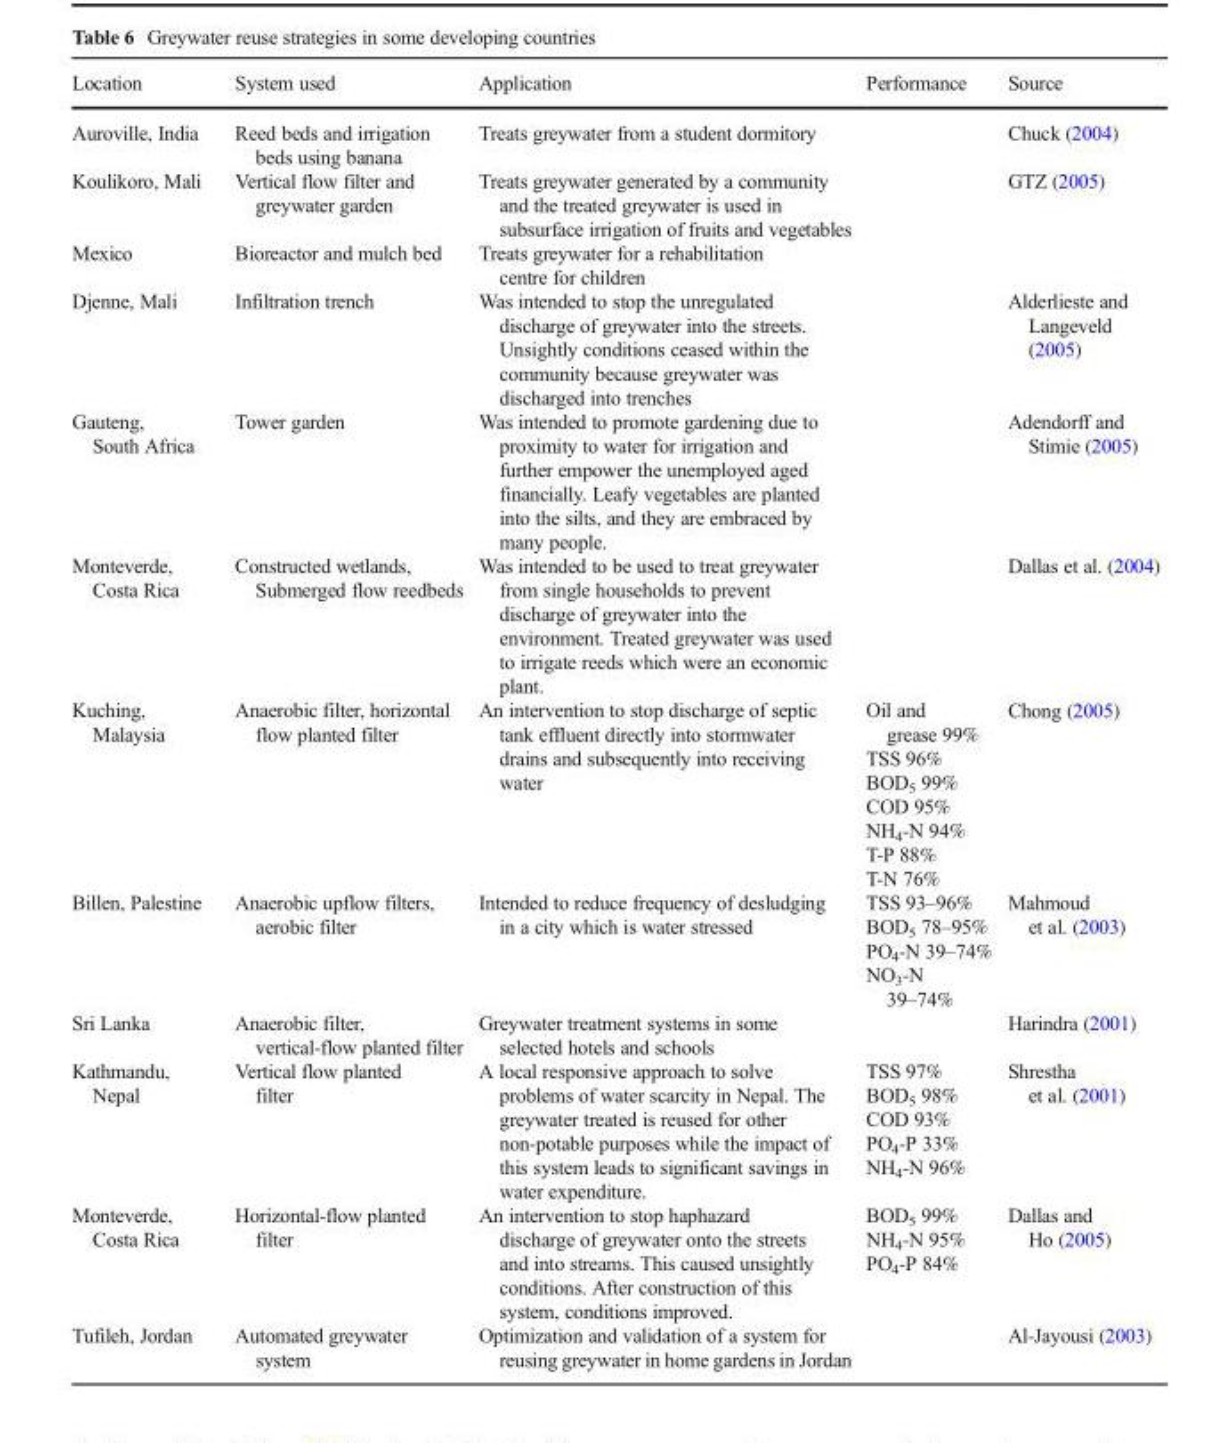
<table><thead><tr><td>Location</td><td>System used</td><td>Application</td><td>Performance</td><td>Source</td></tr></thead><tbody><tr><td>Auroville, India</td><td>Reed beds and irrigation beds using banana</td><td>Treats greywater from a student dormitory</td><td></td><td>Chuck (2004)</td></tr><tr><td>Koulikoro, Mali</td><td>Vertical flow filter and greywater garden</td><td>Treats greywater generated by a community and the treated greywater is used in subsurface irrigation of fruits and vegetables</td><td></td><td>GTZ (2005)</td></tr><tr><td>Mexico</td><td>Bioreactor and mulch bed</td><td>Treats greywater for a rehabilitation centre for children</td><td></td><td></td></tr><tr><td>Djenne, Mali</td><td>Infiltration trench</td><td>Was intended to stop the unregulated discharge of greywater into the streets. Unsightly conditions ceased within the community because greywater was discharged into trenches</td><td></td><td>Alderlieste and Langeveld (2005)</td></tr><tr><td>Gauteng, South Africa</td><td>Tower garden</td><td>Was intended to promote gardening due to proximity to water for irrigation and further empower the unemployed aged financially. Leafy vegetables are planted into the silts, and they are embraced by many people.</td><td></td><td>Adendorff and Stimie (2005)</td></tr><tr><td>Monteverde, Costa Rica</td><td>Constructed wetlands, Submerged flow reedbeds</td><td>Was intended to be used to treat greywater from single households to prevent discharge of greywater into the environment. Treated greywater was used to irrigate reeds which were an economic plant.</td><td></td><td>Dallas et al. (2004)</td></tr><tr><td>Kuching, Malaysia</td><td>Anaerobic filter, horizontal flow planted filter</td><td>An intervention to stop discharge of septic tank effluent directly into stormwater drains and subsequently into receiving water</td><td>Oil and grease 99% TSS 96% BOD<sub>5</sub> 99% COD 95% NH<sub>4</sub>-N 94% T-P 88% T-N 76%</td><td>Chong (2005)</td></tr><tr><td>Billen, Palestine</td><td>Anaerobic upflow filters, aerobic filter</td><td>Intended to reduce frequency of desludging in a city which is water stressed</td><td>TSS 93–96% BOD<sub>5</sub> 78–95% PO<sub>4</sub>-N 39–74% NO<sub>3</sub>-N 39–74%</td><td>Mahmoud et al. (2003)</td></tr><tr><td>Sri Lanka</td><td>Anaerobic filter, vertical-flow planted filter</td><td>Greywater treatment systems in some selected hotels and schools</td><td></td><td>Harindra (2001)</td></tr><tr><td>Kathmandu, Nepal</td><td>Vertical flow planted filter</td><td>A local responsive approach to solve problems of water scarcity in Nepal. The greywater treated is reused for other non-potable purposes while the impact of this system leads to significant savings in water expenditure.</td><td>TSS 97% BOD<sub>5</sub> 98% COD 93% PO<sub>4</sub>-P 33% NH<sub>4</sub>-N 96%</td><td>Shrestha et al. (2001)</td></tr><tr><td>Monteverde, Costa Rica</td><td>Horizontal-flow planted filter</td><td>An intervention to stop haphazard discharge of greywater onto the streets and into streams. This caused unsightly conditions. After construction of this system, conditions improved.</td><td>BOD<sub>5</sub> 99% NH<sub>4</sub>-N 95% PO<sub>4</sub>-P 84%</td><td>Dallas and Ho (2005)</td></tr><tr><td>Tufileh, Jordan</td><td>Automated greywater system</td><td>Optimization and validation of a system for reusing greywater in home gardens in Jordan</td><td></td><td>Al-Jayousi (2003)</td></tr></tbody></table>